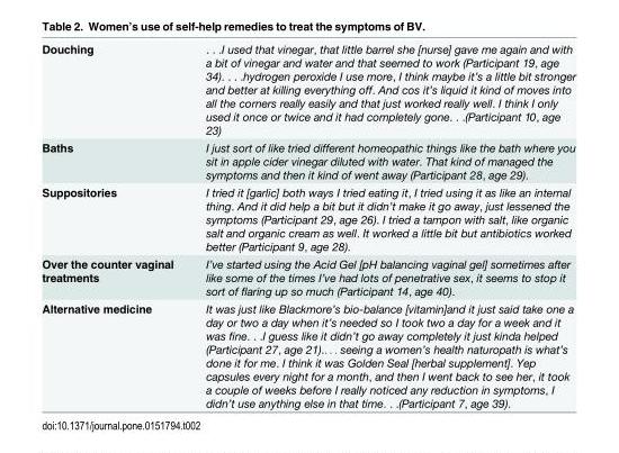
<table><tbody><tr><td>Douching</td><td>. . .I used that vinegar, that little barrel she [nurse] gave me again and with a bit of vinegar and water and that seemed to work (Participant 19, age 34). . . .hydrogen peroxide I use more, I think maybe it’s a little bit stronger and better at killing everything off. And cos it’s liquid it kind of moves into all the corners really easily and that just worked really well. I think I only used it once or twice and it had completely gone. . .(Participant 10, age 23)</td></tr><tr><td>Baths</td><td>I just sort of like tried different homeopathic things like the bath where you sit in apple cider vinegar diluted with water. That kind of managed the symptoms and then it kind of went away (Participant 28, age 29).</td></tr><tr><td>Suppositories</td><td>I tried it [garlic] both ways I tried eating it, I tried using it as like an internal thing. And it did help a bit but it didn’t make it go away, just lessened the symptoms (Participant 29, age 26). I tried a tampon with salt, like organic salt and organic cream as well. It worked a little bit but antibiotics worked better (Participant 9, age 28).</td></tr><tr><td>Over the counter vaginal treatments</td><td>I’ve started using the Acid Gel [pH balancing vaginal gel] sometimes after like some of the times I’ve had lots of penetrative sex, it seems to stop it sort of flaring up so much (Participant 14, age 40).</td></tr><tr><td>Alternative medicine</td><td>It was just like Blackmore’s bio-balance [vitamin]and it just said take one a day or two a day when it’s needed so I took two a day for a week and it was fine. . .I guess like it didn’t go away completely it just kinda helped (Participant 27, age 21).. . . seeing a women’s health naturopath is what’s done it for me. I think it was Golden Seal [herbal supplement]. Yep capsules every night for a month, and then I went back to see her, it took a couple of weeks before I really noticed any reduction in symptoms, I didn’t use anything else in that time. . .(Participant 7, age 39).</td></tr></tbody></table>